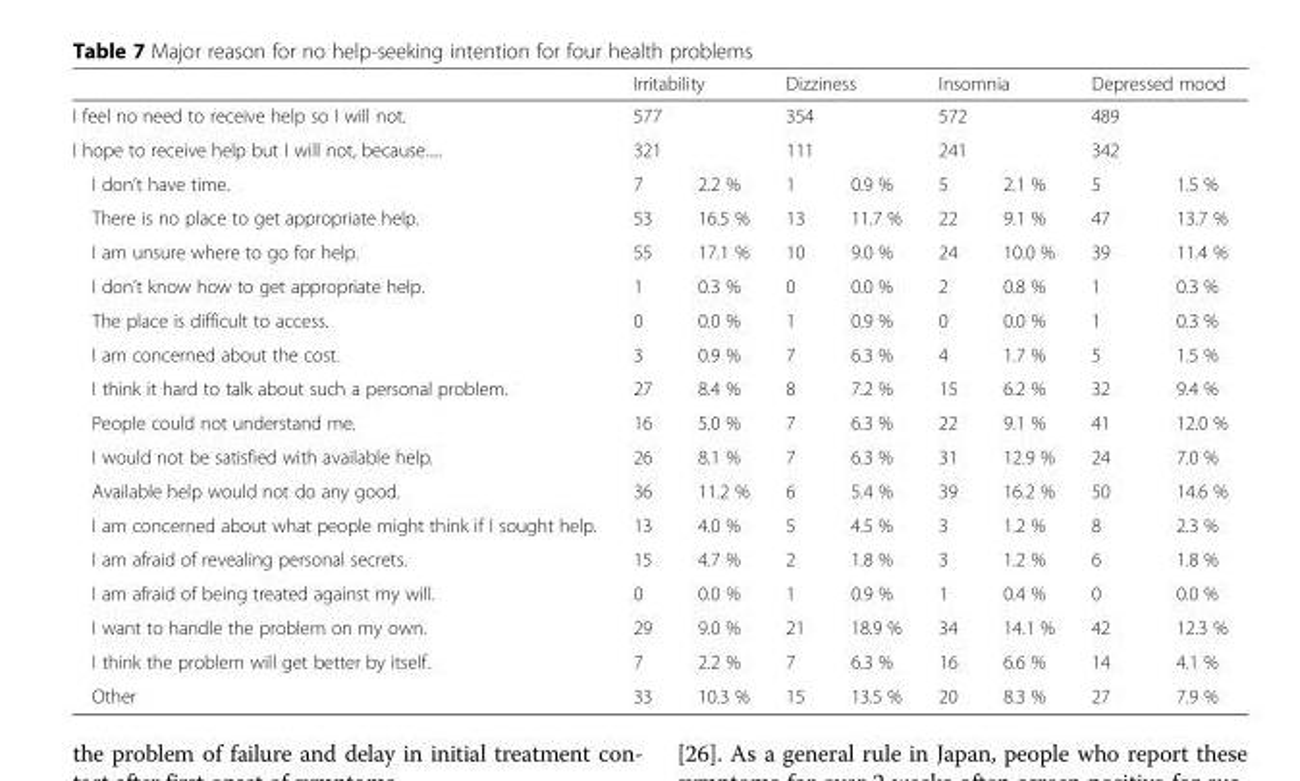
<table><thead><tr><td rowspan="2">I feel no need to receive help so I will not.</td><td colspan="2">Irritability</td><td colspan="2">Dizziness</td><td colspan="2">Insomnia</td><td colspan="2">Depressed mood</td></tr><tr><td>577</td><td></td><td>354</td><td></td><td>572</td><td></td><td>489</td><td></td></tr></thead><tbody><tr><td>I hope to receive help but I will not, because.....</td><td>321</td><td></td><td>111</td><td></td><td>241</td><td></td><td>342</td><td></td></tr><tr><td>I don’t have time.</td><td>7</td><td>2.2 %</td><td>1</td><td>0.9 %</td><td>5</td><td>2.1 %</td><td>5</td><td>1.5 %</td></tr><tr><td>There is no place to get appropriate help.</td><td>53</td><td>16.5 %</td><td>13</td><td>11.7 %</td><td>22</td><td>9.1 %</td><td>47</td><td>13.7 %</td></tr><tr><td>I am unsure where to go for help.</td><td>55</td><td>17.1 %</td><td>10</td><td>9.0 %</td><td>24</td><td>10.0 %</td><td>39</td><td>11.4 %</td></tr><tr><td>I don’t know how to get appropriate help.</td><td>1</td><td>0.3 %</td><td>0</td><td>0.0 %</td><td>2</td><td>0.8 %</td><td>1</td><td>0.3 %</td></tr><tr><td>The place is difficult to access.</td><td>0</td><td>0.0 %</td><td>1</td><td>0.9 %</td><td>0</td><td>0.0 %</td><td>1</td><td>0.3 %</td></tr><tr><td>I am concerned about the cost.</td><td>3</td><td>0.9 %</td><td>7</td><td>6.3 %</td><td>4</td><td>1.7 %</td><td>5</td><td>1.5 %</td></tr><tr><td>I think it hard to talk about such a personal problem.</td><td>27</td><td>8.4 %</td><td>8</td><td>7.2 %</td><td>15</td><td>6.2 %</td><td>32</td><td>9.4 %</td></tr><tr><td>People could not understand me.</td><td>16</td><td>5.0 %</td><td>7</td><td>6.3 %</td><td>22</td><td>9.1 %</td><td>41</td><td>12.0 %</td></tr><tr><td>I would not be satisfied with available help.</td><td>26</td><td>8.1 %</td><td>7</td><td>6.3 %</td><td>31</td><td>12.9 %</td><td>24</td><td>7.0 %</td></tr><tr><td>Available help would not do any good.</td><td>36</td><td>11.2 %</td><td>6</td><td>5.4 %</td><td>39</td><td>16.2 %</td><td>50</td><td>14.6 %</td></tr><tr><td>I am concerned about what people might think if I sought help.</td><td>13</td><td>4.0 %</td><td>5</td><td>4.5 %</td><td>3</td><td>1.2 %</td><td>8</td><td>2.3 %</td></tr><tr><td>I am afraid of revealing personal secrets.</td><td>15</td><td>4.7 %</td><td>2</td><td>1.8 %</td><td>3</td><td>1.2 %</td><td>6</td><td>1.8 %</td></tr><tr><td>I am afraid of being treated against my will.</td><td>0</td><td>0.0 %</td><td>1</td><td>0.9 %</td><td>1</td><td>0.4 %</td><td>0</td><td>0.0 %</td></tr><tr><td>I want to handle the problem on my own.</td><td>29</td><td>9.0 %</td><td>21</td><td>18.9 %</td><td>34</td><td>14.1 %</td><td>42</td><td>12.3 %</td></tr><tr><td>I think the problem will get better by itself.</td><td>7</td><td>2.2 %</td><td>7</td><td>6.3 %</td><td>16</td><td>6.6 %</td><td>14</td><td>4.1 %</td></tr><tr><td>Other</td><td>33</td><td>10.3 %</td><td>15</td><td>13.5 %</td><td>20</td><td>8.3 %</td><td>27</td><td>7.9 %</td></tr></tbody></table>